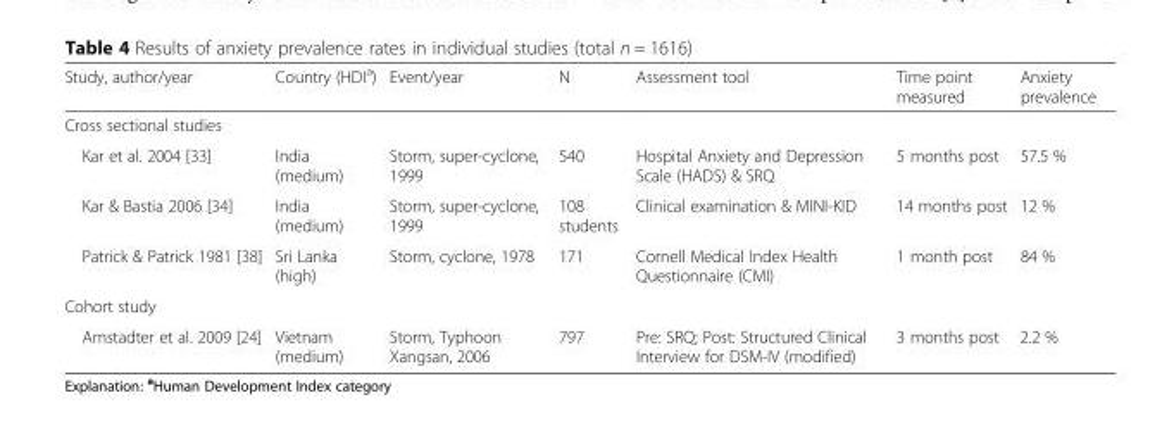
<table><thead><tr><td>Study, author/year</td><td>Country (HDI<sup>a</sup>)</td><td>Event/year</td><td>N</td><td>Assessment tool</td><td>Time point measured</td><td>Anxiety prevalence</td></tr></thead><tbody><tr><td colspan="7">Cross sectional studies</td></tr><tr><td>Kar et al. 2004 [33]</td><td>India (medium)</td><td>Storm, super-cyclone, 1999</td><td>540</td><td>Hospital Anxiety and Depression Scale (HADS) &amp; SRQ</td><td>5 months post</td><td>57.5 %</td></tr><tr><td>Kar &amp; Bastia 2006 [34]</td><td>India (medium)</td><td>Storm, super-cyclone, 1999</td><td>108 students</td><td>Clinical examination &amp; MINI-KID</td><td>14 months post</td><td>12 %</td></tr><tr><td>Patrick &amp; Patrick 1981 [38]</td><td>Sri Lanka (high)</td><td>Storm, cyclone, 1978</td><td>171</td><td>Cornell Medical Index Health Questionnaire (CMI)</td><td>1 month post</td><td>84 %</td></tr><tr><td colspan="7">Cohort study</td></tr><tr><td>Amstadter et al. 2009 [24]</td><td>Vietnam (medium)</td><td>Storm, Typhoon Xangsan, 2006</td><td>797</td><td>Pre: SRQ; Post: Structured Clinical Interview for DSM-IV (modified)</td><td>3 months post</td><td>2.2 %</td></tr></tbody></table>